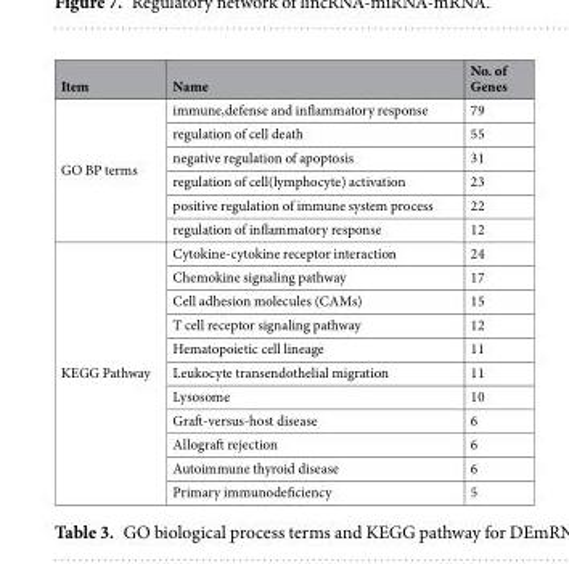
<table><thead><tr><td>Item</td><td>Name</td><td>No. of Genes</td></tr></thead><tbody><tr><td rowspan="6">GO BP terms</td><td>immune,defense and inflammatory response</td><td>79</td></tr><tr><td>regulation of cell death</td><td>55</td></tr><tr><td>negative regulation of apoptosis</td><td>31</td></tr><tr><td>regulation of cell(lymphocyte) activation</td><td>23</td></tr><tr><td>positive regulation of immune system process</td><td>22</td></tr><tr><td>regulation of inflammatory response</td><td>12</td></tr><tr><td rowspan="11">KEGG Pathway</td><td>Cytokine-cytokine receptor interaction</td><td>24</td></tr><tr><td>Chemokine signaling pathway</td><td>17</td></tr><tr><td>Cell adhesion molecules (CAMs)</td><td>15</td></tr><tr><td>T cell receptor signaling pathway</td><td>12</td></tr><tr><td>Hematopoietic cell lineage</td><td>11</td></tr><tr><td>Leukocyte transendothelial migration</td><td>11</td></tr><tr><td>Lysosome</td><td>10</td></tr><tr><td>Graft-versus-host disease</td><td>6</td></tr><tr><td>Allograft rejection</td><td>6</td></tr><tr><td>Autoimmune thyroid disease</td><td>6</td></tr><tr><td>Primary immunodeficiency</td><td>5</td></tr></tbody></table>